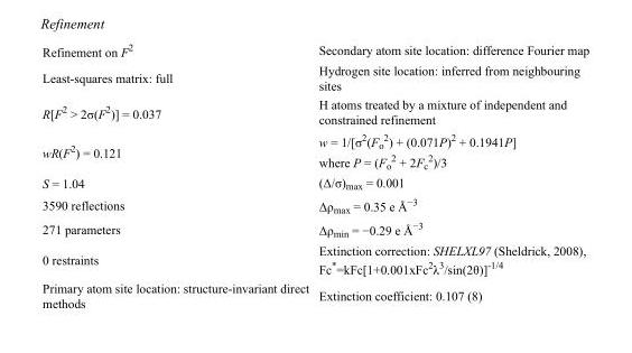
<table><tbody><tr><td>Refinement on F<sup>2</sup></td><td>Secondary atom site location: difference Fourier map</td></tr><tr><td>Least-squares matrix: full</td><td>Hydrogen site location: inferred from neighbouring sites</td></tr><tr><td>R[F<sup>2</sup> &gt; 2σ(F<sup>2</sup>)] = 0.037</td><td>H atoms treated by a mixture of independent and constrained refinement</td></tr><tr><td>wR(F<sup>2</sup>) = 0.121</td><td>w = 1/[σ<sup>2</sup>(F<sub>o</sub> <sup>2</sup>) + (0.071P)<sup>2</sup> + 0.1941P] where P = (F<sub>o</sub> <sup>2</sup> + 2F<sub>c</sub> <sup>2</sup>)/3</td></tr><tr><td>S = 1.04</td><td>(Δ/σ)<sub>max</sub> = 0.001</td></tr><tr><td>3590 reflections</td><td>Δρ<sub>max</sub> = 0.35 e Å<sup>−3</sup></td></tr><tr><td>271 parameters</td><td>Δρ<sub>min</sub> = −0.29 e Å<sup>−3</sup></td></tr><tr><td>0 restraints</td><td>Extinction correction: SHELXL97 (Sheldrick, 2008), Fc*=kFc[1+0.001xFc<sup>2</sup>λ<sup>3</sup>/sin(2θ)]<sup>-1/4</sup></td></tr><tr><td>Primary atom site location: structure-invariant direct methods</td><td>Extinction coefficient: 0.107 (8)</td></tr></tbody></table>